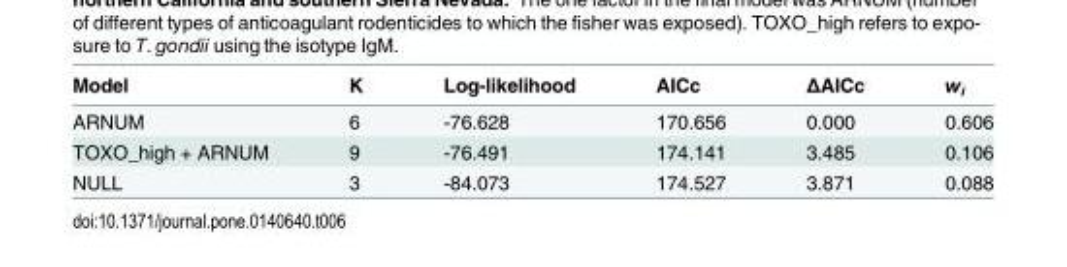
<table><thead><tr><td>Model</td><td>K</td><td>Log-likelihood</td><td>AICc</td><td>ΔAICc</td><td>w<sub>i</sub></td></tr></thead><tbody><tr><td>ARNUM</td><td>6</td><td>-76.628</td><td>170.656</td><td>0.000</td><td>0.606</td></tr><tr><td>TOXO_high + ARNUM</td><td>9</td><td>-76.491</td><td>174.141</td><td>3.485</td><td>0.106</td></tr><tr><td>NULL</td><td>3</td><td>-84.073</td><td>174.527</td><td>3.871</td><td>0.088</td></tr></tbody></table>